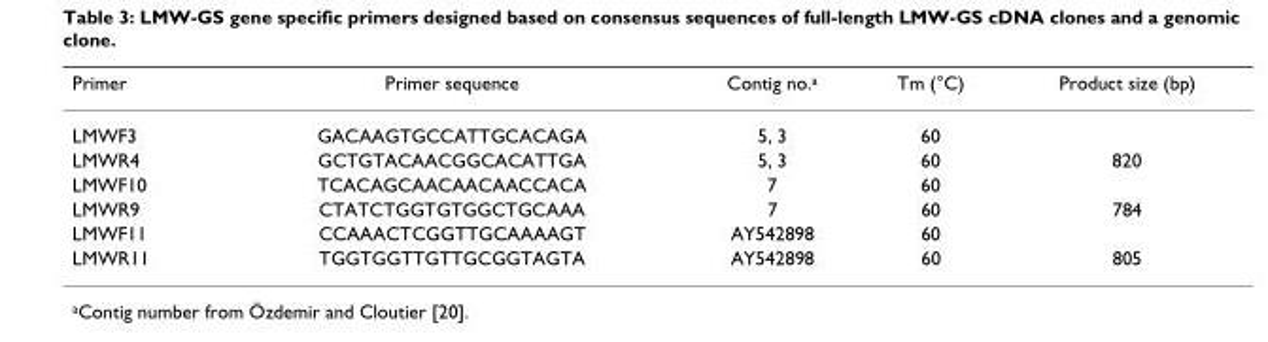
<table><thead><tr><td>Primer</td><td>Primer sequence</td><td>Contig no.<sup>a</sup></td><td>Tm (°C)</td><td>Product size (bp)</td></tr></thead><tbody><tr><td>LMWF3</td><td>GACAAGTGCCATTGCACAGA</td><td>5, 3</td><td>60</td><td></td></tr><tr><td>LMWR4</td><td>GCTGTACAACGGCACATTGA</td><td>5, 3</td><td>60</td><td>820</td></tr><tr><td>LMWF10</td><td>TCACAGCAACAACAACCACA</td><td>7</td><td>60</td><td></td></tr><tr><td>LMWR9</td><td>CTATCTGGTGTGGCTGCAAA</td><td>7</td><td>60</td><td>784</td></tr><tr><td>LMWF11</td><td>CCAAACTCGGTTGCAAAAGT</td><td>AY542898</td><td>60</td><td></td></tr><tr><td>LMWR11</td><td>TGGTGGTTGTTGCGGTAGTA</td><td>AY542898</td><td>60</td><td>805</td></tr></tbody></table>